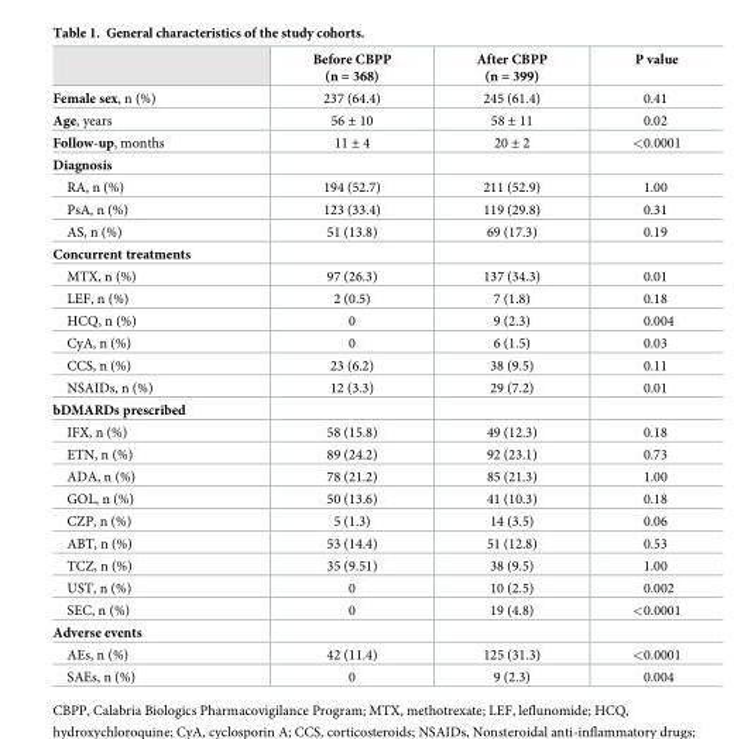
<table><thead><tr><td></td><td>Before CBPP (n = 368)</td><td>After CBPP (n = 399)</td><td>P value</td></tr></thead><tbody><tr><td>Female sex, n (%)</td><td>237 (64.4)</td><td>245 (61.4)</td><td>0.41</td></tr><tr><td>Age, years</td><td>56 ± 10</td><td>58 ± 11</td><td>0.02</td></tr><tr><td>Follow-up, months</td><td>11 ± 4</td><td>20 ± 2</td><td>&lt;0.0001</td></tr><tr><td colspan="4">Diagnosis</td></tr><tr><td>RA, n (%)</td><td>194 (52.7)</td><td>211 (52.9)</td><td>1.00</td></tr><tr><td>PsA, n (%)</td><td>123 (33.4)</td><td>119 (29.8)</td><td>0.31</td></tr><tr><td>AS, n (%)</td><td>51 (13.8)</td><td>69 (17.3)</td><td>0.19</td></tr><tr><td colspan="4">Concurrent treatments</td></tr><tr><td>MTX, n (%)</td><td>97 (26.3)</td><td>137 (34.3)</td><td>0.01</td></tr><tr><td>LEF, n (%)</td><td>2 (0.5)</td><td>7 (1.8)</td><td>0.18</td></tr><tr><td>HCQ, n (%)</td><td>0</td><td>9 (2.3)</td><td>0.004</td></tr><tr><td>CyA, n (%)</td><td>0</td><td>6 (1.5)</td><td>0.03</td></tr><tr><td>CCS, n (%)</td><td>23 (6.2)</td><td>38 (9.5)</td><td>0.11</td></tr><tr><td>NSAIDs, n (%)</td><td>12 (3.3)</td><td>29 (7.2)</td><td>0.01</td></tr><tr><td colspan="4">bDMARDs prescribed</td></tr><tr><td>IFX, n (%)</td><td>58 (15.8)</td><td>49 (12.3)</td><td>0.18</td></tr><tr><td>ETN, n (%)</td><td>89 (24.2)</td><td>92 (23.1)</td><td>0.73</td></tr><tr><td>ADA, n (%)</td><td>78 (21.2)</td><td>85 (21.3)</td><td>1.00</td></tr><tr><td>GOL, n (%)</td><td>50 (13.6)</td><td>41 (10.3)</td><td>0.18</td></tr><tr><td>CZP, n (%)</td><td>5 (1.3)</td><td>14 (3.5)</td><td>0.06</td></tr><tr><td>ABT, n (%)</td><td>53 (14.4)</td><td>51 (12.8)</td><td>0.53</td></tr><tr><td>TCZ, n (%)</td><td>35 (9.51)</td><td>38 (9.5)</td><td>1.00</td></tr><tr><td>UST, n (%)</td><td>0</td><td>10 (2.5)</td><td>0.002</td></tr><tr><td>SEC, n (%)</td><td>0</td><td>19 (4.8)</td><td>&lt;0.0001</td></tr><tr><td colspan="4">Adverse events</td></tr><tr><td>AEs, n (%)</td><td>42 (11.4)</td><td>125 (31.3)</td><td>&lt;0.0001</td></tr><tr><td>SAEs, n (%)</td><td>0</td><td>9 (2.3)</td><td>0.004</td></tr></tbody></table>